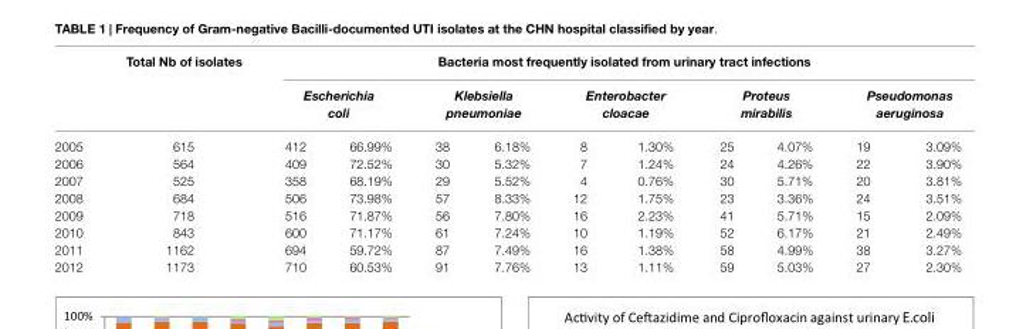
<table><thead><tr><td rowspan="3">2005</td><td rowspan="3">Total Nb of isolates 615</td><td colspan="10">Bacteria most frequently isolated from urinary tract infections</td></tr><tr><td colspan="2">Escherichia coli</td><td colspan="2">Klebsiella pneumoniae</td><td colspan="2">Enterobacter cloacae</td><td colspan="2">Proteus mirabilis</td><td colspan="2">Pseudomonas aeruginosa</td></tr><tr><td>412</td><td>66.99%</td><td>38</td><td>6.18%</td><td>8</td><td>1.30%</td><td>25</td><td>4.07%</td><td>19</td><td>3.09%</td></tr></thead><tbody><tr><td>2006</td><td>564</td><td>409</td><td>72.52%</td><td>30</td><td>5.32%</td><td>7</td><td>1.24%</td><td>24</td><td>4.26%</td><td>22</td><td>3.90%</td></tr><tr><td>2007</td><td>525</td><td>358</td><td>68.19%</td><td>29</td><td>5.52%</td><td>4</td><td>0.76%</td><td>30</td><td>5.71%</td><td>20</td><td>3.81%</td></tr><tr><td>2008</td><td>684</td><td>506</td><td>73.98%</td><td>57</td><td>8.33%</td><td>12</td><td>1.75%</td><td>23</td><td>3.36%</td><td>24</td><td>3.51%</td></tr><tr><td>2009</td><td>718</td><td>516</td><td>71.87%</td><td>56</td><td>7.80%</td><td>16</td><td>2.23%</td><td>41</td><td>5.71%</td><td>15</td><td>2.09%</td></tr><tr><td>2010</td><td>843</td><td>600</td><td>71.17%</td><td>61</td><td>7.24%</td><td>10</td><td>1.19%</td><td>52</td><td>6.17%</td><td>21</td><td>2.49%</td></tr><tr><td>2011</td><td>1162</td><td>694</td><td>59.72%</td><td>87</td><td>7.49%</td><td>16</td><td>1.38%</td><td>58</td><td>4.99%</td><td>38</td><td>3.27%</td></tr><tr><td>2012</td><td>1173</td><td>710</td><td>60.53%</td><td>91</td><td>7.76%</td><td>13</td><td>1.11%</td><td>59</td><td>5.03%</td><td>27</td><td>2.30%</td></tr></tbody></table>